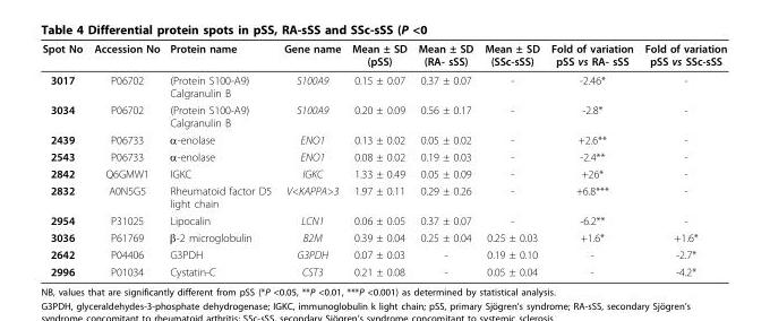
<table><thead><tr><td>Spot No</td><td>Accession No</td><td>Protein name</td><td>Gene name</td><td>Mean ± SD (pSS)</td><td>Mean ± SD (RA- sSS)</td><td>Mean ± SD (SSc-sSS)</td><td>Fold of variation pSS vs RA- sSS</td><td>Fold of variation pSS vs SSc-sSS</td></tr></thead><tbody><tr><td>3017</td><td>P06702</td><td>(Protein S100-A9) Calgranulin B</td><td>S100A9</td><td>0.15 ± 0.07</td><td>0.37 ± 0.07</td><td>-</td><td>-2.46*</td><td>-</td></tr><tr><td>3034</td><td>P06702</td><td>(Protein S100-A9) Calgranulin B</td><td>S100A9</td><td>0.20 ± 0.09</td><td>0.56 ± 0.17</td><td>-</td><td>-2.8*</td><td>-</td></tr><tr><td>2439</td><td>P06733</td><td>α-enolase</td><td>ENO1</td><td>0.13 ± 0.02</td><td>0.05 ± 0.02</td><td>-</td><td>+2.6**</td><td>-</td></tr><tr><td>2543</td><td>P06733</td><td>α-enolase</td><td>ENO1</td><td>0.08 ± 0.02</td><td>0.19 ± 0.03</td><td>-</td><td>-2.4**</td><td>-</td></tr><tr><td>2842</td><td>Q6GMW1</td><td>IGKC</td><td>IGKC</td><td>1.33 ± 0.49</td><td>0.05 ± 0.09</td><td>-</td><td>+26*</td><td>-</td></tr><tr><td>2832</td><td>A0N5G5</td><td>Rheumatoid factor D5 light chain</td><td>V&lt;KAPPA&gt;3</td><td>1.97 ± 0.11</td><td>0.29 ± 0.26</td><td>-</td><td>+6.8***</td><td>-</td></tr><tr><td>2954</td><td>P31025</td><td>Lipocalin</td><td>LCN1</td><td>0.06 ± 0.05</td><td>0.37 ± 0.07</td><td>-</td><td>-6.2**</td><td>-</td></tr><tr><td>3036</td><td>P61769</td><td>β-2 microglobulin</td><td>B2M</td><td>0.39 ± 0.04</td><td>0.25 ± 0.04</td><td>0.25 ± 0.03</td><td>+1.6*</td><td>+1.6*</td></tr><tr><td>2642</td><td>P04406</td><td>G3PDH</td><td>G3PDH</td><td>0.07 ± 0.03</td><td>-</td><td>0.19 ± 0.10</td><td>-</td><td>-2.7*</td></tr><tr><td>2996</td><td>P01034</td><td>Cystatin-C</td><td>CST3</td><td>0.21 ± 0.08</td><td>-</td><td>0.05 ± 0.04</td><td>-</td><td>-4.2*</td></tr></tbody></table>